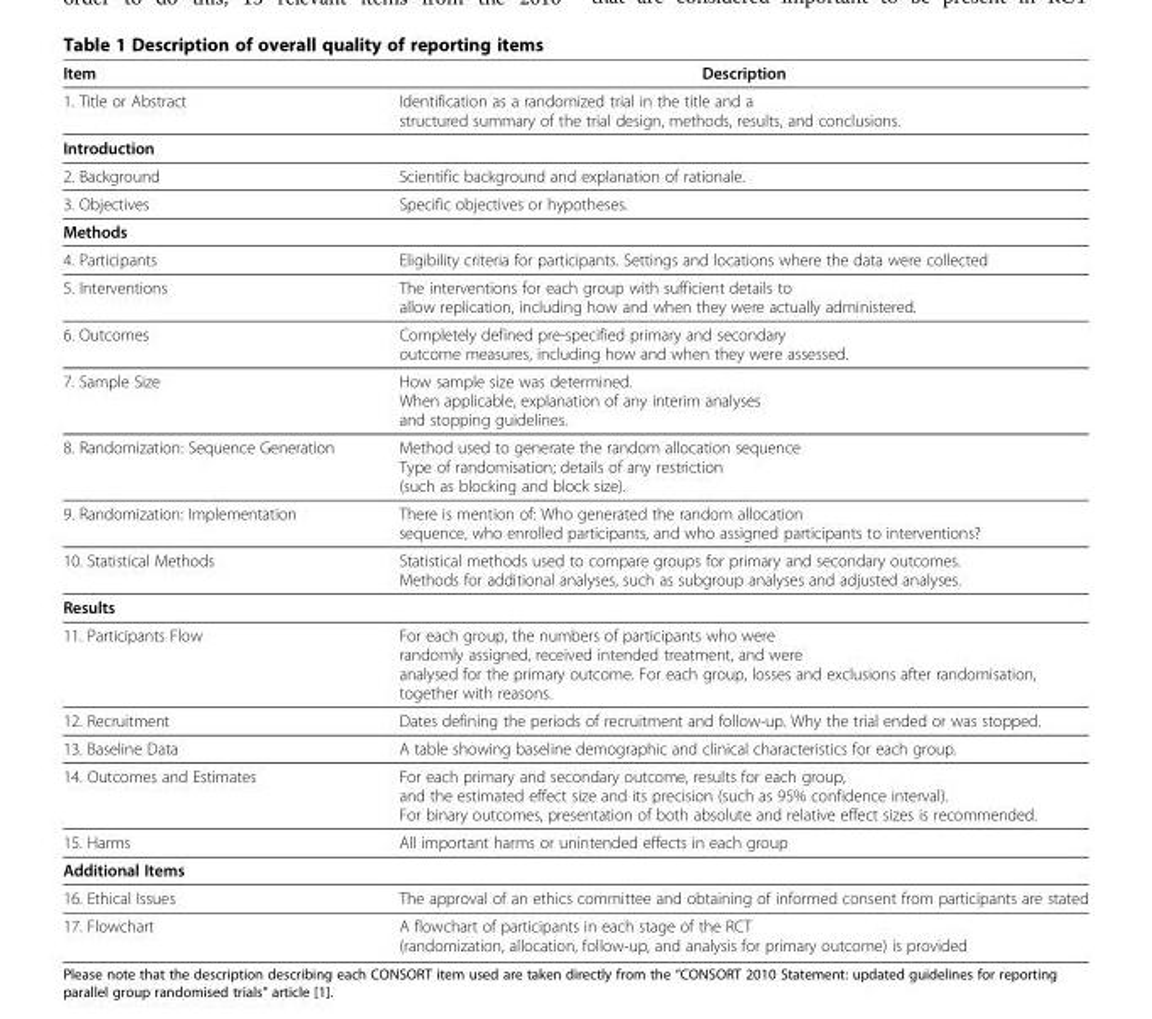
<table><thead><tr><td>Item</td><td>Description</td></tr></thead><tbody><tr><td>1. Title or Abstract</td><td>Identification as a randomized trial in the title and a structured summary of the trial design, methods, results, and conclusions.</td></tr><tr><td colspan="2">Introduction</td></tr><tr><td>2. Background</td><td>Scientific background and explanation of rationale.</td></tr><tr><td>3. Objectives</td><td>Specific objectives or hypotheses.</td></tr><tr><td colspan="2">Methods</td></tr><tr><td>4. Participants</td><td>Eligibility criteria for participants. Settings and locations where the data were collected</td></tr><tr><td>5. Interventions</td><td>The interventions for each group with sufficient details to allow replication, including how and when they were actually administered.</td></tr><tr><td>6. Outcomes</td><td>Completely defined pre-specified primary and secondary outcome measures, including how and when they were assessed.</td></tr><tr><td>7. Sample Size</td><td>How sample size was determined. When applicable, explanation of any interim analyses and stopping guidelines.</td></tr><tr><td>8. Randomization: Sequence Generation</td><td>Method used to generate the random allocation sequence Type of randomisation; details of any restriction (such as blocking and block size).</td></tr><tr><td>9. Randomization: Implementation</td><td>There is mention of: Who generated the random allocation sequence, who enrolled participants, and who assigned participants to interventions?</td></tr><tr><td>10. Statistical Methods</td><td>Statistical methods used to compare groups for primary and secondary outcomes. Methods for additional analyses, such as subgroup analyses and adjusted analyses.</td></tr><tr><td colspan="2">Results</td></tr><tr><td>11. Participants Flow</td><td>For each group, the numbers of participants who were randomly assigned, received intended treatment, and were analysed for the primary outcome. For each group, losses and exclusions after randomisation, together with reasons.</td></tr><tr><td>12. Recruitment</td><td>Dates defining the periods of recruitment and follow-up. Why the trial ended or was stopped.</td></tr><tr><td>13. Baseline Data</td><td>A table showing baseline demographic and clinical characteristics for each group.</td></tr><tr><td>14. Outcomes and Estimates</td><td>For each primary and secondary outcome, results for each group, and the estimated effect size and its precision (such as 95% confidence interval). For binary outcomes, presentation of both absolute and relative effect sizes is recommended.</td></tr><tr><td>15. Harms</td><td>All important harms or unintended effects in each group</td></tr><tr><td colspan="2">Additional Items</td></tr><tr><td>16. Ethical Issues</td><td>The approval of an ethics committee and obtaining of informed consent from participants are stated</td></tr><tr><td>17. Flowchart</td><td>A flowchart of participants in each stage of the RCT (randomization, allocation, follow-up, and analysis for primary outcome) is provided</td></tr></tbody></table>